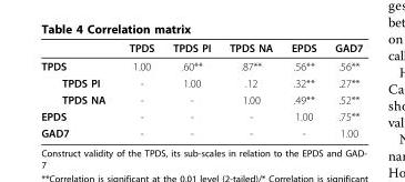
<table><thead><tr><td></td><td>TPDS</td><td>TPDS PI</td><td>TPDS NA</td><td>EPDS</td><td>GAD7</td></tr></thead><tbody><tr><td>TPDS</td><td>1.00</td><td>.60**</td><td>.87**</td><td>.56**</td><td>.56**</td></tr><tr><td>TPDS PI</td><td>-</td><td>1.00</td><td>.12</td><td>.32**</td><td>.27**</td></tr><tr><td>TPDS NA</td><td>-</td><td>-</td><td>1.00</td><td>.49**</td><td>.52**</td></tr><tr><td>EPDS</td><td>-</td><td>-</td><td>-</td><td>1.00</td><td>.75**</td></tr><tr><td>GAD7</td><td>-</td><td>-</td><td>-</td><td>-</td><td>1.00</td></tr></tbody></table>